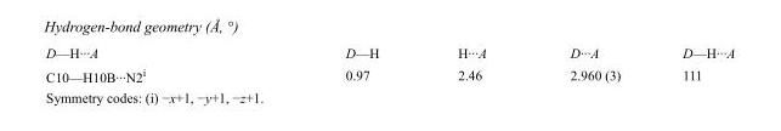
<table><tbody><tr><td>D—H···A</td><td>D—H</td><td>H···A</td><td>D···A</td><td>D—H···A</td></tr><tr><td>C10—H10B···N2<sup>i</sup></td><td>0.97</td><td>2.46</td><td>2.960 (3)</td><td>111</td></tr></tbody></table>